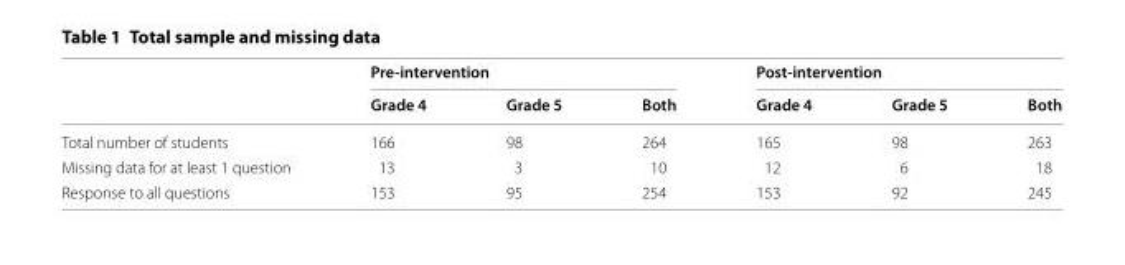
<table><thead><tr><td rowspan="2"></td><td colspan="3">Pre‑intervention</td><td colspan="3">Post‑intervention</td></tr><tr><td>Grade 4</td><td>Grade 5</td><td>Both</td><td>Grade 4</td><td>Grade 5</td><td>Both</td></tr></thead><tbody><tr><td>Total number of students</td><td>166</td><td>98</td><td>264</td><td>165</td><td>98</td><td>263</td></tr><tr><td>Missing data for at least 1 question</td><td>13</td><td>3</td><td>10</td><td>12</td><td>6</td><td>18</td></tr><tr><td>Response to all questions</td><td>153</td><td>95</td><td>254</td><td>153</td><td>92</td><td>245</td></tr></tbody></table>